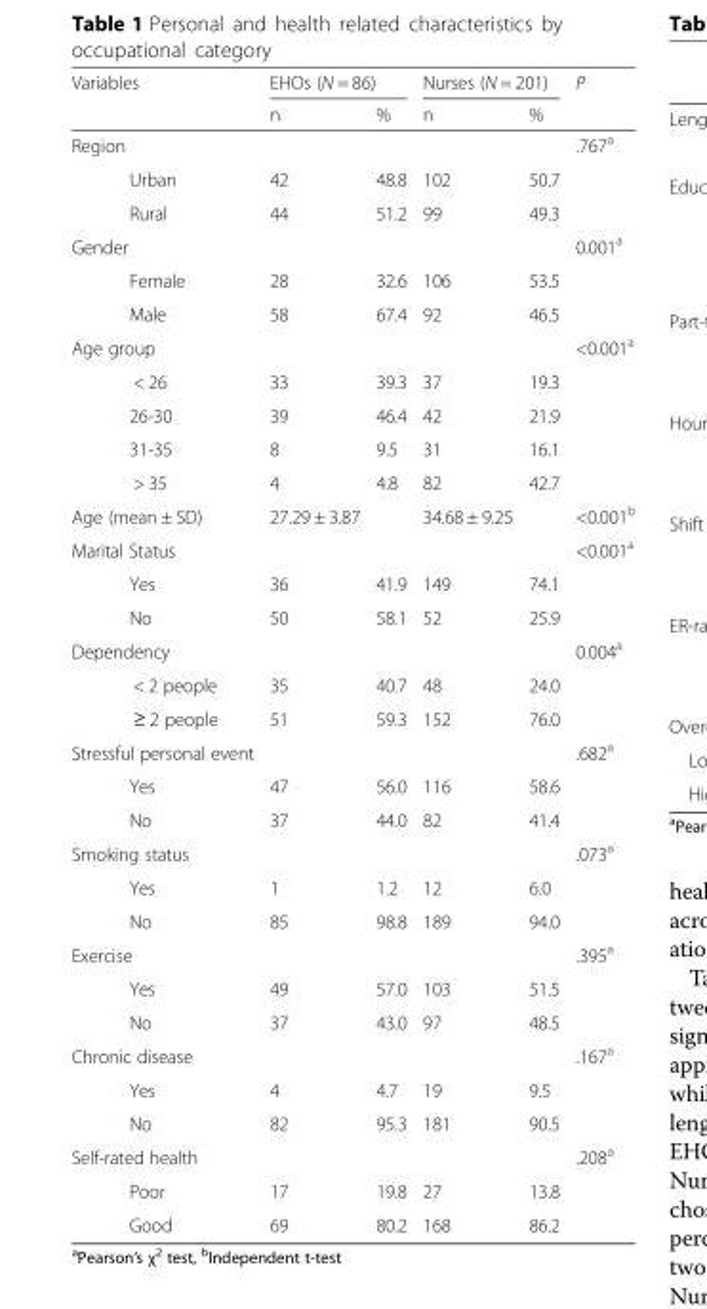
<table><thead><tr><td rowspan="2">Variables</td><td colspan="2">EHOs (N = 86)</td><td colspan="2">Nurses (N = 201)</td><td rowspan="2">P</td></tr><tr><td>n</td><td>%</td><td>n</td><td>%</td></tr></thead><tbody><tr><td>Region</td><td></td><td></td><td></td><td></td><td>.767<sup>a</sup></td></tr><tr><td>Urban</td><td>42</td><td>48.8</td><td>102</td><td>50.7</td><td></td></tr><tr><td>Rural</td><td>44</td><td>51.2</td><td>99</td><td>49.3</td><td></td></tr><tr><td>Gender</td><td></td><td></td><td></td><td></td><td>0.001<sup>a</sup></td></tr><tr><td>Female</td><td>28</td><td>32.6</td><td>106</td><td>53.5</td><td></td></tr><tr><td>Male</td><td>58</td><td>67.4</td><td>92</td><td>46.5</td><td></td></tr><tr><td>Age group</td><td></td><td></td><td></td><td></td><td>&lt;0.001<sup>a</sup></td></tr><tr><td>&lt; 26</td><td>33</td><td>39.3</td><td>37</td><td>19.3</td><td></td></tr><tr><td>26-30</td><td>39</td><td>46.4</td><td>42</td><td>21.9</td><td></td></tr><tr><td>31-35</td><td>8</td><td>9.5</td><td>31</td><td>16.1</td><td></td></tr><tr><td>&gt; 35</td><td>4</td><td>4.8</td><td>82</td><td>42.7</td><td></td></tr><tr><td>Age (mean ± SD)</td><td>27.29 ± 3.87</td><td></td><td>34.68 ± 9.25</td><td></td><td>&lt;0.001<sup>b</sup></td></tr><tr><td>Marital Status</td><td></td><td></td><td></td><td></td><td>&lt;0.001<sup>a</sup></td></tr><tr><td>Yes</td><td>36</td><td>41.9</td><td>149</td><td>74.1</td><td></td></tr><tr><td>No</td><td>50</td><td>58.1</td><td>52</td><td>25.9</td><td></td></tr><tr><td>Dependency</td><td></td><td></td><td></td><td></td><td>0.004<sup>a</sup></td></tr><tr><td>&lt; 2 people</td><td>35</td><td>40.7</td><td>48</td><td>24.0</td><td></td></tr><tr><td>≥ 2 people</td><td>51</td><td>59.3</td><td>152</td><td>76.0</td><td></td></tr><tr><td>Stressful personal event</td><td></td><td></td><td></td><td></td><td>.682<sup>a</sup></td></tr><tr><td>Yes</td><td>47</td><td>56.0</td><td>116</td><td>58.6</td><td></td></tr><tr><td>No</td><td>37</td><td>44.0</td><td>82</td><td>41.4</td><td></td></tr><tr><td>Smoking status</td><td></td><td></td><td></td><td></td><td>.073<sup>a</sup></td></tr><tr><td>Yes</td><td>1</td><td>1.2</td><td>12</td><td>6.0</td><td></td></tr><tr><td>No</td><td>85</td><td>98.8</td><td>189</td><td>94.0</td><td></td></tr><tr><td>Exercise</td><td></td><td></td><td></td><td></td><td>.395<sup>a</sup></td></tr><tr><td>Yes</td><td>49</td><td>57.0</td><td>103</td><td>51.5</td><td></td></tr><tr><td>No</td><td>37</td><td>43.0</td><td>97</td><td>48.5</td><td></td></tr><tr><td>Chronic disease</td><td></td><td></td><td></td><td></td><td>.167<sup>a</sup></td></tr><tr><td>Yes</td><td>4</td><td>4.7</td><td>19</td><td>9.5</td><td></td></tr><tr><td>No</td><td>82</td><td>95.3</td><td>181</td><td>90.5</td><td></td></tr><tr><td>Self-rated health</td><td></td><td></td><td></td><td></td><td>.208<sup>a</sup></td></tr><tr><td>Poor</td><td>17</td><td>19.8</td><td>27</td><td>13.8</td><td></td></tr><tr><td>Good</td><td>69</td><td>80.2</td><td>168</td><td>86.2</td><td></td></tr></tbody></table>